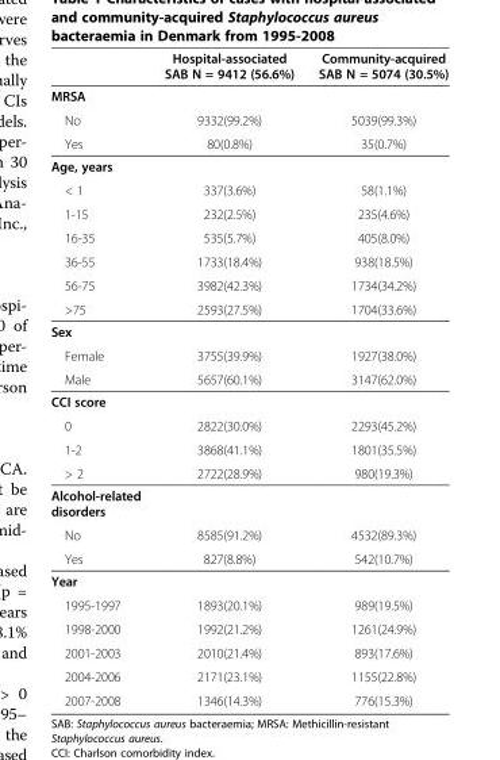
<table><thead><tr><td></td><td>Hospital-associated SAB N = 9412 (56.6%)</td><td>Community-acquired SAB N = 5074 (30.5%)</td></tr></thead><tbody><tr><td colspan="3">MRSA</td></tr><tr><td>No</td><td>9332(99.2%)</td><td>5039(99.3%)</td></tr><tr><td>Yes</td><td>80(0.8%)</td><td>35(0.7%)</td></tr><tr><td colspan="3">Age, years</td></tr><tr><td>&lt; 1</td><td>337(3.6%)</td><td>58(1.1%)</td></tr><tr><td>1-15</td><td>232(2.5%)</td><td>235(4.6%)</td></tr><tr><td>16-35</td><td>535(5.7%)</td><td>405(8.0%)</td></tr><tr><td>36-55</td><td>1733(18.4%)</td><td>938(18.5%)</td></tr><tr><td>56-75</td><td>3982(42.3%)</td><td>1734(34.2%)</td></tr><tr><td>&gt;75</td><td>2593(27.5%)</td><td>1704(33.6%)</td></tr><tr><td colspan="3">Sex</td></tr><tr><td>Female</td><td>3755(39.9%)</td><td>1927(38.0%)</td></tr><tr><td>Male</td><td>5657(60.1%)</td><td>3147(62.0%)</td></tr><tr><td colspan="3">CCI score</td></tr><tr><td>0</td><td>2822(30.0%)</td><td>2293(45.2%)</td></tr><tr><td>1-2</td><td>3868(41.1%)</td><td>1801(35.5%)</td></tr><tr><td>&gt; 2</td><td>2722(28.9%)</td><td>980(19.3%)</td></tr><tr><td colspan="3">Alcohol-related disorders</td></tr><tr><td>No</td><td>8585(91.2%)</td><td>4532(89.3%)</td></tr><tr><td>Yes</td><td>827(8.8%)</td><td>542(10.7%)</td></tr><tr><td colspan="3">Year</td></tr><tr><td>1995-1997</td><td>1893(20.1%)</td><td>989(19.5%)</td></tr><tr><td>1998-2000</td><td>1992(21.2%)</td><td>1261(24.9%)</td></tr><tr><td>2001-2003</td><td>2010(21.4%)</td><td>893(17.6%)</td></tr><tr><td>2004-2006</td><td>2171(23.1%)</td><td>1155(22.8%)</td></tr><tr><td>2007-2008</td><td>1346(14.3%)</td><td>776(15.3%)</td></tr></tbody></table>